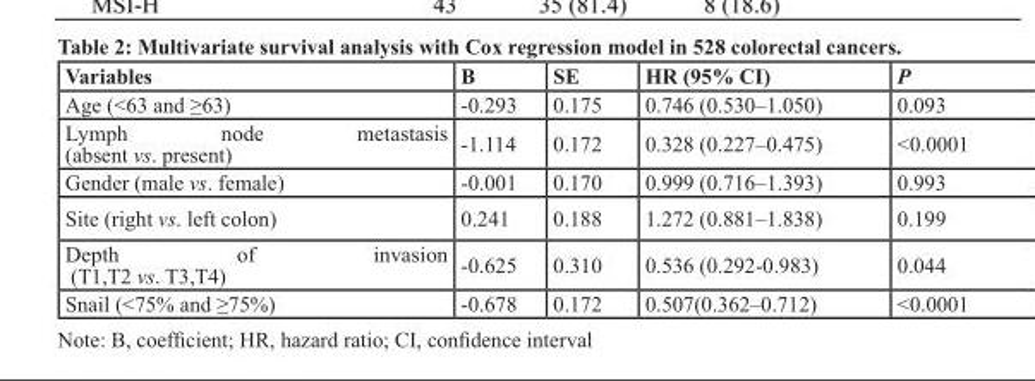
<table><thead><tr><td>Variables</td><td>B</td><td>SE</td><td>HR (95% CI)</td><td>P</td></tr></thead><tbody><tr><td>Age (&lt;63 and ≥63)</td><td>-0.293</td><td>0.175</td><td>0.746 (0.530–1.050)</td><td>0.093</td></tr><tr><td>Lymph node metastasis (absent vs. present)</td><td>-1.114</td><td>0.172</td><td>0.328 (0.227–0.475)</td><td>&lt;0.0001</td></tr><tr><td>Gender (male vs. female)</td><td>-0.001</td><td>0.170</td><td>0.999 (0.716–1.393)</td><td>0.993</td></tr><tr><td>Site (right vs. left colon)</td><td>0.241</td><td>0.188</td><td>1.272 (0.881–1.838)</td><td>0.199</td></tr><tr><td>Depth of invasion (T1,T2 vs. T3,T4)</td><td>-0.625</td><td>0.310</td><td>0.536 (0.292-0.983)</td><td>0.044</td></tr><tr><td>Snail (&lt;75% and ≥75%)</td><td>-0.678</td><td>0.172</td><td>0.507(0.362–0.712)</td><td>&lt;0.0001</td></tr></tbody></table>